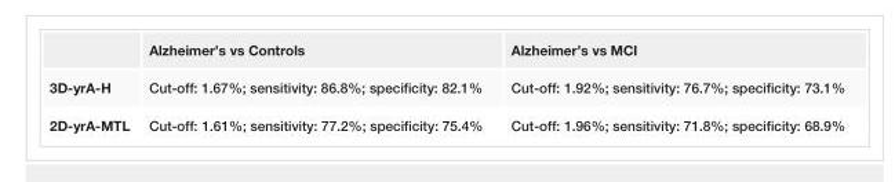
<table><thead><tr><td></td><td>Alzheimer’s vs Controls</td><td>Alzheimer’s vs MCI</td></tr></thead><tbody><tr><td>3D-yrA-H</td><td>Cut-off: 1.67%; sensitivity: 86.8%; specificity: 82.1%</td><td>Cut-off: 1.92%; sensitivity: 76.7%; specificity: 73.1%</td></tr><tr><td>2D-yrA-MTL</td><td>Cut-off: 1.61%; sensitivity: 77.2%; specificity: 75.4%</td><td>Cut-off: 1.96%; sensitivity: 71.8%; specificity: 68.9%</td></tr></tbody></table>